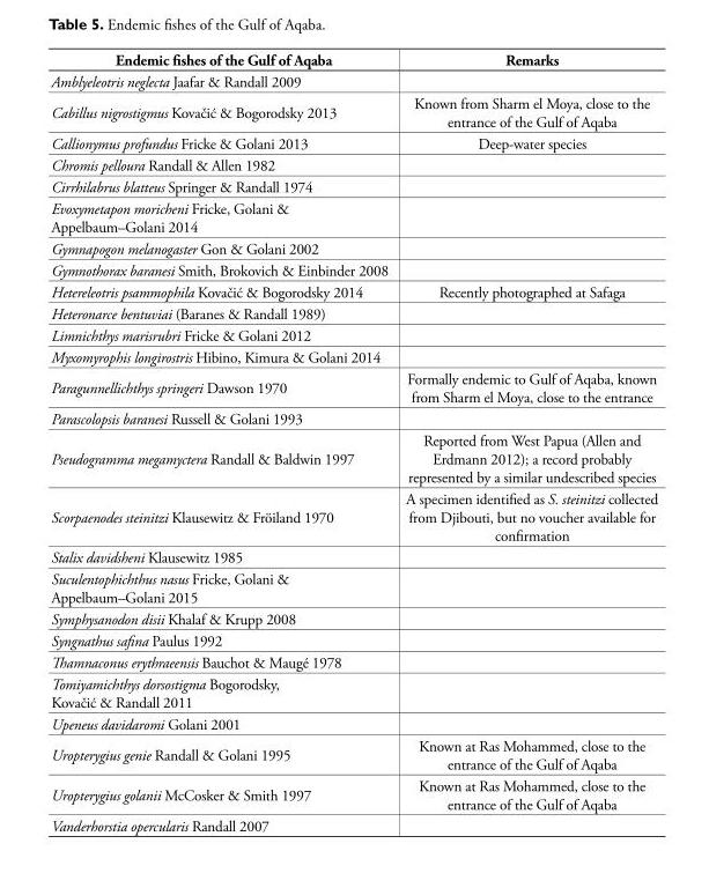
<table><thead><tr><td>Endemic fishes of the Gulf of Aqaba</td><td>Remarks</td></tr></thead><tbody><tr><td colspan="2">Amblyeleotris neglecta Jaafar &amp; Randall 2009</td></tr><tr><td>Cabillus nigrostigmus Kovačić &amp; Bogorodsky 2013</td><td>Known from Sharm el Moya, close to the entrance of the Gulf of Aqaba</td></tr><tr><td>Callionymus profundus Fricke &amp; Golani 2013</td><td>Deep-water species</td></tr><tr><td colspan="2">Chromis pelloura Randall &amp; Allen 1982</td></tr><tr><td colspan="2">Cirrhilabrus blatteus Springer &amp; Randall 1974</td></tr><tr><td colspan="2">Evoxymetapon moricheni Fricke, Golani &amp; Appelbaum–Golani 2014</td></tr><tr><td colspan="2">Gymnapogon melanogaster Gon &amp; Golani 2002</td></tr><tr><td colspan="2">Gymnothorax baranesi Smith, Brokovich &amp; Einbinder 2008</td></tr><tr><td>Hetereleotris psammophila Kovačić &amp; Bogorodsky 2014</td><td>Recently photographed at Safaga</td></tr><tr><td colspan="2">Heteronarce bentuviai (Baranes &amp; Randall 1989)</td></tr><tr><td colspan="2">Limnichthys marisrubri Fricke &amp; Golani 2012</td></tr><tr><td colspan="2">Myxomyrophis longirostris Hibino, Kimura &amp; Golani 2014</td></tr><tr><td>Paragunnellichthys springeri Dawson 1970</td><td>Formally endemic to Gulf of Aqaba, known from Sharm el Moya, close to the entrance</td></tr><tr><td colspan="2">Parascolopsis baranesi Russell &amp; Golani 1993</td></tr><tr><td>Pseudogramma megamyctera Randall &amp; Baldwin 1997</td><td>Reported from West Papua (Allen and Erdmann 2012); a record probably represented by a similar undescribed species</td></tr><tr><td>Scorpaenodes steinitzi Klausewitz &amp; Fröiland 1970</td><td>A specimen identified as S. steinitzi collected from Djibouti, but no voucher available for confirmation</td></tr><tr><td colspan="2">Stalix davidsheni Klausewitz 1985</td></tr><tr><td colspan="2">Suculentophichthus nasus Fricke, Golani &amp; Appelbaum–Golani 2015</td></tr><tr><td colspan="2">Symphysanodon disii Khalaf &amp; Krupp 2008</td></tr><tr><td colspan="2">Syngnathus safina Paulus 1992</td></tr><tr><td colspan="2">Thamnaconus erythraeensis Bauchot &amp; Maugé 1978</td></tr><tr><td colspan="2">Tomiyamichthys dorsostigma Bogorodsky, Kovačić &amp; Randall 2011</td></tr><tr><td colspan="2">Upeneus davidaromi Golani 2001</td></tr><tr><td>Uropterygius genie Randall &amp; Golani 1995</td><td>Known at Ras Mohammed, close to the entrance of the Gulf of Aqaba</td></tr><tr><td>Uropterygius golanii McCosker &amp; Smith 1997</td><td>Known at Ras Mohammed, close to the entrance of the Gulf of Aqaba</td></tr><tr><td>Vanderhorstia opercularis Randall 2007</td><td></td></tr></tbody></table>